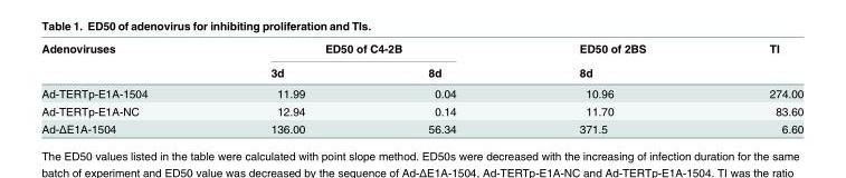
<table><thead><tr><td rowspan="2">Adenoviruses</td><td colspan="2">ED50 of C4-2B</td><td rowspan="2">ED50 of 2BS 8d</td><td rowspan="2">TI</td></tr><tr><td>3d</td><td>8d</td></tr></thead><tbody><tr><td>Ad-TERTp-E1A-1504</td><td>11.99</td><td>0.04</td><td>10.96</td><td>274.00</td></tr><tr><td>Ad-TERTp-E1A-NC</td><td>12.94</td><td>0.14</td><td>11.70</td><td>83.60</td></tr><tr><td>Ad-ΔE1A-1504</td><td>136.00</td><td>56.34</td><td>371.5</td><td>6.60</td></tr></tbody></table>